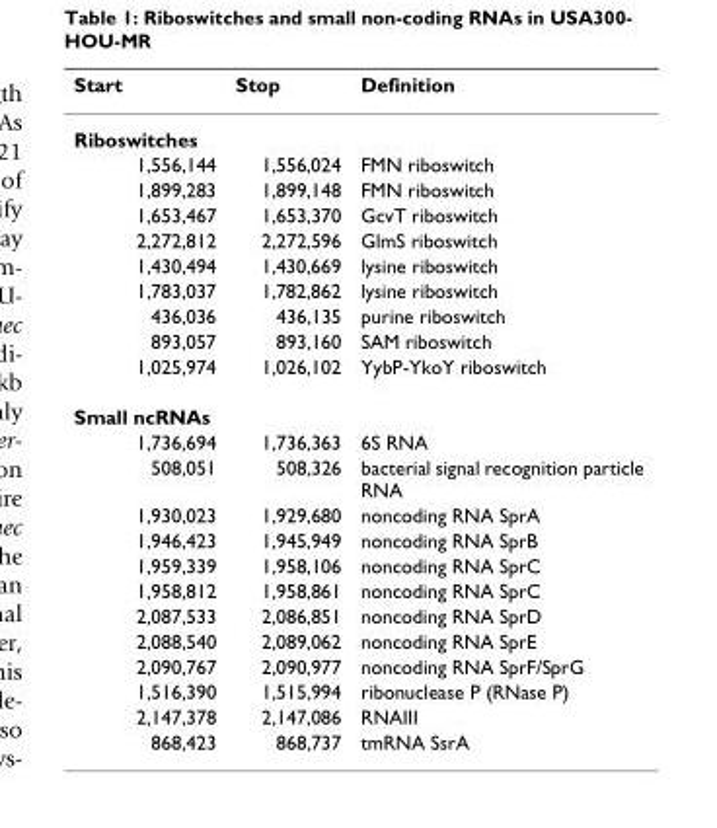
<table><thead><tr><td>Start</td><td>Stop</td><td>Definition</td></tr></thead><tbody><tr><td colspan="3">Riboswitches</td></tr><tr><td>1,556,144</td><td>1,556,024</td><td>FMN riboswitch</td></tr><tr><td>1,899,283</td><td>1,899,148</td><td>FMN riboswitch</td></tr><tr><td>1,653,467</td><td>1,653,370</td><td>GcvT riboswitch</td></tr><tr><td>2,272,812</td><td>2,272,596</td><td>GlmS riboswitch</td></tr><tr><td>1,430,494</td><td>1,430,669</td><td>lysine riboswitch</td></tr><tr><td>1,783,037</td><td>1,782,862</td><td>lysine riboswitch</td></tr><tr><td>436,036</td><td>436,135</td><td>purine riboswitch</td></tr><tr><td>893,057</td><td>893,160</td><td>SAM riboswitch</td></tr><tr><td>1,025,974</td><td>1,026,102</td><td>YybP-YkoY riboswitch</td></tr><tr><td colspan="3">Small ncRNAs</td></tr><tr><td>1,736,694</td><td>1,736,363</td><td>6S RNA</td></tr><tr><td>508,051</td><td>508,326</td><td>bacterial signal recognition particle RNA</td></tr><tr><td>1,930,023</td><td>1,929,680</td><td>noncoding RNA SprA</td></tr><tr><td>1,946,423</td><td>1,945,949</td><td>noncoding RNA SprB</td></tr><tr><td>1,959,339</td><td>1,958,106</td><td>noncoding RNA SprC</td></tr><tr><td>1,958,812</td><td>1,958,861</td><td>noncoding RNA SprC</td></tr><tr><td>2,087,533</td><td>2,086,851</td><td>noncoding RNA SprD</td></tr><tr><td>2,088,540</td><td>2,089,062</td><td>noncoding RNA SprE</td></tr><tr><td>2,090,767</td><td>2,090,977</td><td>noncoding RNA SprF/SprG</td></tr><tr><td>1,516,390</td><td>1,515,994</td><td>ribonuclease P (RNase P)</td></tr><tr><td>2,147,378</td><td>2,147,086</td><td>RNAIII</td></tr><tr><td>868,423</td><td>868,737</td><td>tmRNA SsrA</td></tr></tbody></table>